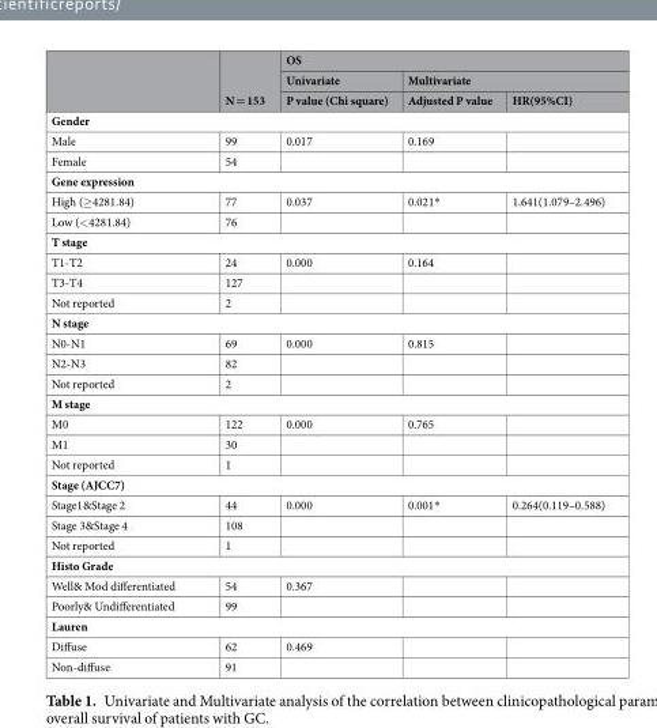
<table><thead><tr><td rowspan="3"></td><td rowspan="3">N = 153</td><td colspan="3">OS</td></tr><tr><td rowspan="2">Univariate P value (Chi square)</td><td colspan="2">Multivariate</td></tr><tr><td>Adjusted P value</td><td>HR(95%CI)</td></tr></thead><tbody><tr><td colspan="5">Gender</td></tr><tr><td>Male</td><td>99</td><td>0.017</td><td>0.169</td><td></td></tr><tr><td>Female</td><td>54</td><td></td><td></td><td></td></tr><tr><td colspan="5">Gene expression</td></tr><tr><td>High (≥4281.84)</td><td>77</td><td>0.037</td><td>0.021*</td><td>1.641(1.079–2.496)</td></tr><tr><td>Low (&lt;4281.84)</td><td>76</td><td></td><td></td><td></td></tr><tr><td colspan="5">T stage</td></tr><tr><td>T1-T2</td><td>24</td><td>0.000</td><td>0.164</td><td></td></tr><tr><td>T3-T4</td><td>127</td><td></td><td></td><td></td></tr><tr><td>Not reported</td><td>2</td><td></td><td></td><td></td></tr><tr><td colspan="5">N stage</td></tr><tr><td>N0-N1</td><td>69</td><td>0.000</td><td>0.815</td><td></td></tr><tr><td>N2-N3</td><td>82</td><td></td><td></td><td></td></tr><tr><td>Not reported</td><td>2</td><td></td><td></td><td></td></tr><tr><td colspan="5">M stage</td></tr><tr><td>M0</td><td>122</td><td>0.000</td><td>0.765</td><td></td></tr><tr><td>M1</td><td>30</td><td></td><td></td><td></td></tr><tr><td>Not reported</td><td>1</td><td></td><td></td><td></td></tr><tr><td colspan="5">Stage (AJCC7)</td></tr><tr><td>Stage1&amp;Stage 2</td><td>44</td><td>0.000</td><td>0.001*</td><td>0.264(0.119–0.588)</td></tr><tr><td>Stage 3&amp;Stage 4</td><td>108</td><td></td><td></td><td></td></tr><tr><td>Not reported</td><td>1</td><td></td><td></td><td></td></tr><tr><td colspan="5">Histo Grade</td></tr><tr><td>Well&amp; Mod differentiated</td><td>54</td><td>0.367</td><td></td><td></td></tr><tr><td>Poorly&amp; Undifferentiated</td><td>99</td><td></td><td></td><td></td></tr><tr><td colspan="5">Lauren</td></tr><tr><td>Diffuse</td><td>62</td><td>0.469</td><td></td><td></td></tr><tr><td>Non-diffuse</td><td>91</td><td></td><td></td><td></td></tr></tbody></table>